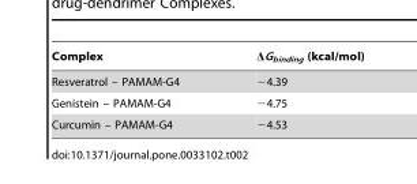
<table><thead><tr><td>Complex</td><td>ΔG<sub>binding</sub> (kcal/mol)</td></tr></thead><tbody><tr><td>Resveratrol – PAMAM-G4</td><td>−4.39</td></tr><tr><td>Genistein – PAMAM-G4</td><td>−4.75</td></tr><tr><td>Curcumin – PAMAM-G4</td><td>−4.53</td></tr></tbody></table>